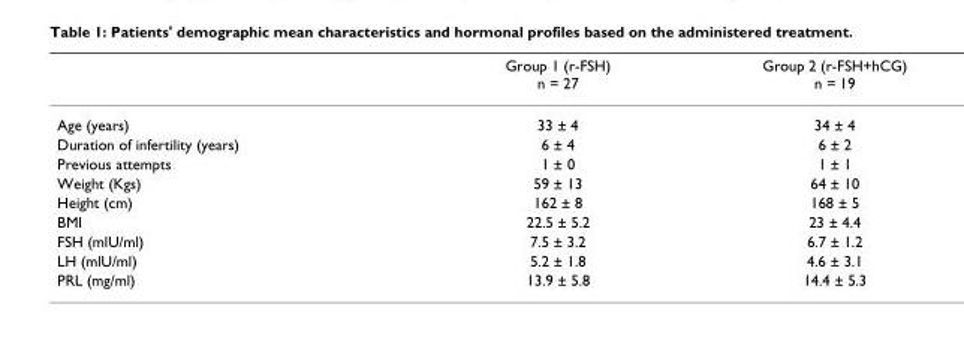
<table><thead><tr><td></td><td>Group 1 (r-FSH) n = 27</td><td>Group 2 (r-FSH+hCG) n = 19</td></tr></thead><tbody><tr><td>Age (years)</td><td>33 ± 4</td><td>34 ± 4</td></tr><tr><td>Duration of infertility (years)</td><td>6 ± 4</td><td>6 ± 2</td></tr><tr><td>Previous attempts</td><td>1 ± 0</td><td>1 ± 1</td></tr><tr><td>Weight (Kgs)</td><td>59 ± 13</td><td>64 ± 10</td></tr><tr><td>Height (cm)</td><td>162 ± 8</td><td>168 ± 5</td></tr><tr><td>BMI</td><td>22.5 ± 5.2</td><td>23 ± 4.4</td></tr><tr><td>FSH (mlU/ml)</td><td>7.5 ± 3.2</td><td>6.7 ± 1.2</td></tr><tr><td>LH (mlU/ml)</td><td>5.2 ± 1.8</td><td>4.6 ± 3.1</td></tr><tr><td>PRL (mg/ml)</td><td>13.9 ± 5.8</td><td>14.4 ± 5.3</td></tr></tbody></table>